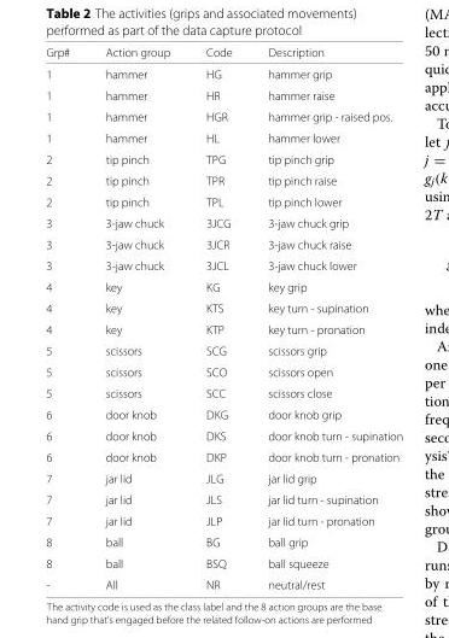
<table><thead><tr><td>Grp#</td><td>Action group</td><td>Code</td><td>Description</td></tr></thead><tbody><tr><td>1</td><td>hammer</td><td>HG</td><td>hammer grip</td></tr><tr><td>1</td><td>hammer</td><td>HR</td><td>hammer raise</td></tr><tr><td>1</td><td>hammer</td><td>HGR</td><td>hammer grip - raised pos.</td></tr><tr><td>1</td><td>hammer</td><td>HL</td><td>hammer lower</td></tr><tr><td>2</td><td>tip pinch</td><td>TPG</td><td>tip pinch grip</td></tr><tr><td>2</td><td>tip pinch</td><td>TPR</td><td>tip pinch raise</td></tr><tr><td>2</td><td>tip pinch</td><td>TPL</td><td>tip pinch lower</td></tr><tr><td>3</td><td>3-jaw chuck</td><td>3JCG</td><td>3-jaw chuck grip</td></tr><tr><td>3</td><td>3-jaw chuck</td><td>3JCR</td><td>3-jaw chuck raise</td></tr><tr><td>3</td><td>3-jaw chuck</td><td>3JCL</td><td>3-jaw chuck lower</td></tr><tr><td>4</td><td>key</td><td>KG</td><td>key grip</td></tr><tr><td>4</td><td>key</td><td>KTS</td><td>key turn - supination</td></tr><tr><td>4</td><td>key</td><td>KTP</td><td>key turn - pronation</td></tr><tr><td>5</td><td>scissors</td><td>SCG</td><td>scissors grip</td></tr><tr><td>5</td><td>scissors</td><td>SCO</td><td>scissors open</td></tr><tr><td>5</td><td>scissors</td><td>SCC</td><td>scissors close</td></tr><tr><td>6</td><td>door knob</td><td>DKG</td><td>door knob grip</td></tr><tr><td>6</td><td>door knob</td><td>DKS</td><td>door knob turn - supination</td></tr><tr><td>6</td><td>door knob</td><td>DKP</td><td>door knob turn - pronation</td></tr><tr><td>7</td><td>jar lid</td><td>JLG</td><td>jar lid grip</td></tr><tr><td>7</td><td>jar lid</td><td>JLS</td><td>jar lid turn - supination</td></tr><tr><td>7</td><td>jar lid</td><td>JLP</td><td>jar lid turn - pronation</td></tr><tr><td>8</td><td>ball</td><td>BG</td><td>ball grip</td></tr><tr><td>8</td><td>ball</td><td>BSQ</td><td>ball squeeze</td></tr><tr><td>-</td><td>All</td><td>NR</td><td>neutral/rest</td></tr></tbody></table>